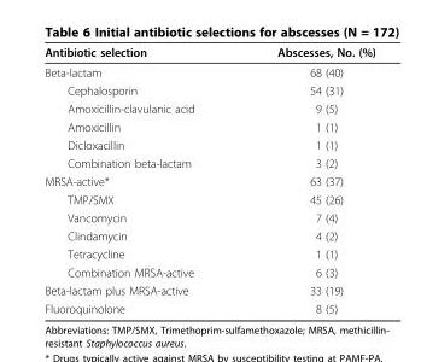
<table><thead><tr><td>Antibiotic selection</td><td>Abscesses, No. (%)</td></tr></thead><tbody><tr><td>Beta-lactam</td><td>68 (40)</td></tr><tr><td>Cephalosporin</td><td>54 (31)</td></tr><tr><td>Amoxicillin-clavulanic acid</td><td>9 (5)</td></tr><tr><td>Amoxicillin</td><td>1 (1)</td></tr><tr><td>Dicloxacillin</td><td>1 (1)</td></tr><tr><td>Combination beta-lactam</td><td>3 (2)</td></tr><tr><td>MRSA-active*</td><td>63 (37)</td></tr><tr><td>TMP/SMX</td><td>45 (26)</td></tr><tr><td>Vancomycin</td><td>7 (4)</td></tr><tr><td>Clindamycin</td><td>4 (2)</td></tr><tr><td>Tetracycline</td><td>1 (1)</td></tr><tr><td>Combination MRSA-active</td><td>6 (3)</td></tr><tr><td>Beta-lactam plus MRSA-active</td><td>33 (19)</td></tr><tr><td>Fluoroquinolone</td><td>8 (5)</td></tr></tbody></table>